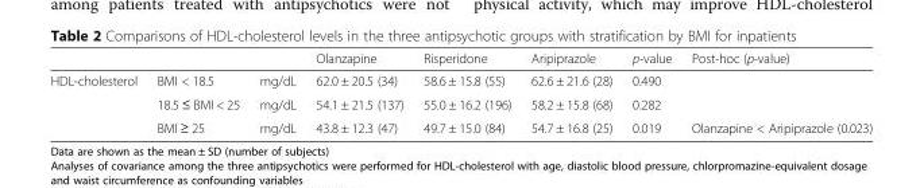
<table><thead><tr><td></td><td></td><td></td><td>Olanzapine</td><td>Risperidone</td><td>Aripiprazole</td><td>p-value</td><td>Post-hoc (p-value)</td></tr></thead><tbody><tr><td rowspan="3">HDL-cholesterol</td><td>BMI &lt; 18.5</td><td>mg/dL</td><td>62.0 ± 20.5 (34)</td><td>58.6 ± 15.8 (55)</td><td>62.6 ± 21.6 (28)</td><td>0.490</td><td></td></tr><tr><td>18.5 ≤ BMI &lt; 25</td><td>mg/dL</td><td>54.1 ± 21.5 (137)</td><td>55.0 ± 16.2 (196)</td><td>58.2 ± 15.8 (68)</td><td>0.282</td><td></td></tr><tr><td>BMI ≥ 25</td><td>mg/dL</td><td>43.8 ± 12.3 (47)</td><td>49.7 ± 15.0 (84)</td><td>54.7 ± 16.8 (25)</td><td>0.019</td><td>Olanzapine &lt; Aripiprazole (0.023)</td></tr></tbody></table>